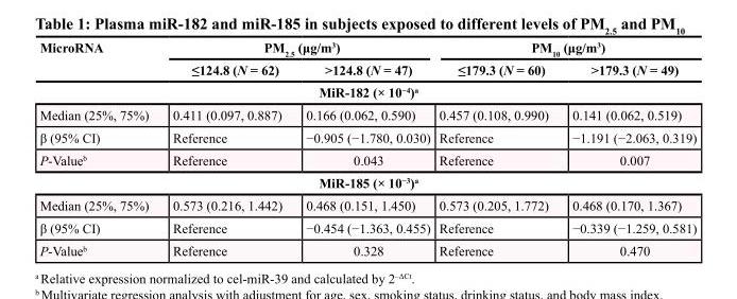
<table><thead><tr><td rowspan="2">MicroRNA</td><td colspan="2">PM<sub>2.5</sub> (μg/m<sup>3</sup>)</td><td colspan="2">PM<sub>10</sub> (μg/m<sup>3</sup>)</td></tr><tr><td>≤124.8 (N = 62)</td><td>&gt;124.8 (N = 47)</td><td>≤179.3 (N = 60)</td><td>&gt;179.3 (N = 49)</td></tr></thead><tbody><tr><td colspan="5">MiR-182 (× 10<sup>−4</sup>)<sup>a</sup></td></tr><tr><td>Median (25%, 75%)</td><td>0.411 (0.097, 0.887)</td><td>0.166 (0.062, 0.590)</td><td>0.457 (0.108, 0.990)</td><td>0.141 (0.062, 0.519)</td></tr><tr><td>β (95% CI)</td><td>Reference</td><td>−0.905 (−1.780, 0.030)</td><td>Reference</td><td>−1.191 (−2.063, 0.319)</td></tr><tr><td>P-Value<sup>b</sup></td><td>Reference</td><td>0.043</td><td>Reference</td><td>0.007</td></tr><tr><td colspan="5">MiR-185 (× 10<sup>−3</sup>)<sup>a</sup></td></tr><tr><td>Median (25%, 75%)</td><td>0.573 (0.216, 1.442)</td><td>0.468 (0.151, 1.450)</td><td>0.573 (0.205, 1.772)</td><td>0.468 (0.170, 1.367)</td></tr><tr><td>β (95% CI)</td><td>Reference</td><td>−0.454 (−1.363, 0.455)</td><td>Reference</td><td>−0.339 (−1.259, 0.581)</td></tr><tr><td>P-Value<sup>b</sup></td><td>Reference</td><td>0.328</td><td>Reference</td><td>0.470</td></tr></tbody></table>